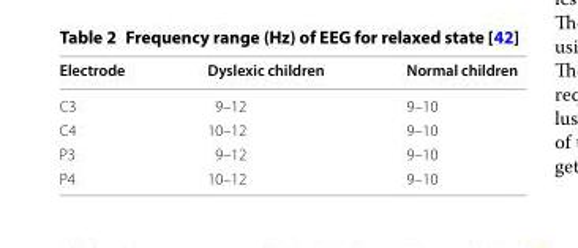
<table><thead><tr><td>Electrode</td><td>Dyslexic children</td><td>Normal children</td></tr></thead><tbody><tr><td>C3</td><td>9–12</td><td>9–10</td></tr><tr><td>C4</td><td>10–12</td><td>9–10</td></tr><tr><td>P3</td><td>9–12</td><td>9–10</td></tr><tr><td>P4</td><td>10–12</td><td>9–10</td></tr></tbody></table>